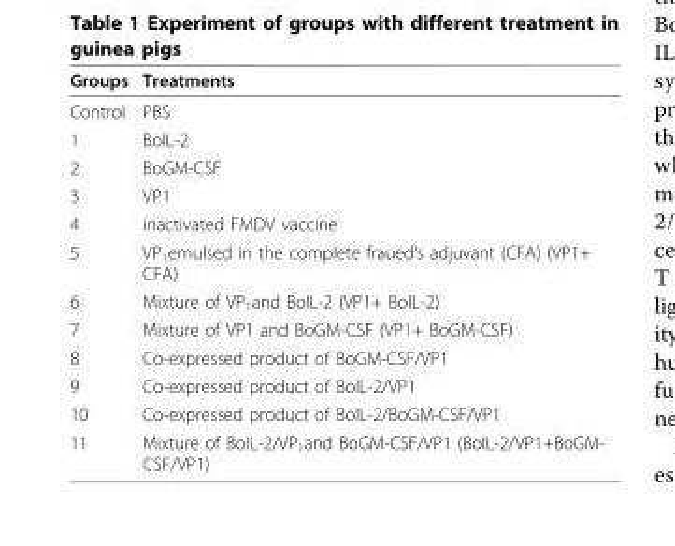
<table><thead><tr><td>Groups</td><td>Treatments</td></tr></thead><tbody><tr><td>Control</td><td>PBS</td></tr><tr><td>1</td><td>BoIL-2</td></tr><tr><td>2</td><td>BoGM-CSF</td></tr><tr><td>3</td><td>VP1</td></tr><tr><td>4</td><td>inactivated FMDV vaccine</td></tr><tr><td>5</td><td>VP<sub>1</sub>emulsed in the complete fraued’s adjuvant (CFA) (VP1+ CFA)</td></tr><tr><td>6</td><td>Mixture of VP<sub>1</sub>and BoIL-2 (VP1+ BoIL-2)</td></tr><tr><td>7</td><td>Mixture of VP1 and BoGM-CSF (VP1+ BoGM-CSF)</td></tr><tr><td>8</td><td>Co-expressed product of BoGM-CSF/VP1</td></tr><tr><td>9</td><td>Co-expressed product of BoIL-2/VP1</td></tr><tr><td>10</td><td>Co-expressed product of BoIL-2/BoGM-CSF/VP1</td></tr><tr><td>11</td><td>Mixture of BoIL-2/VP<sub>1</sub>and BoGM-CSF/VP1 (BoIL-2/VP1+BoGM- CSF/VP1)</td></tr></tbody></table>